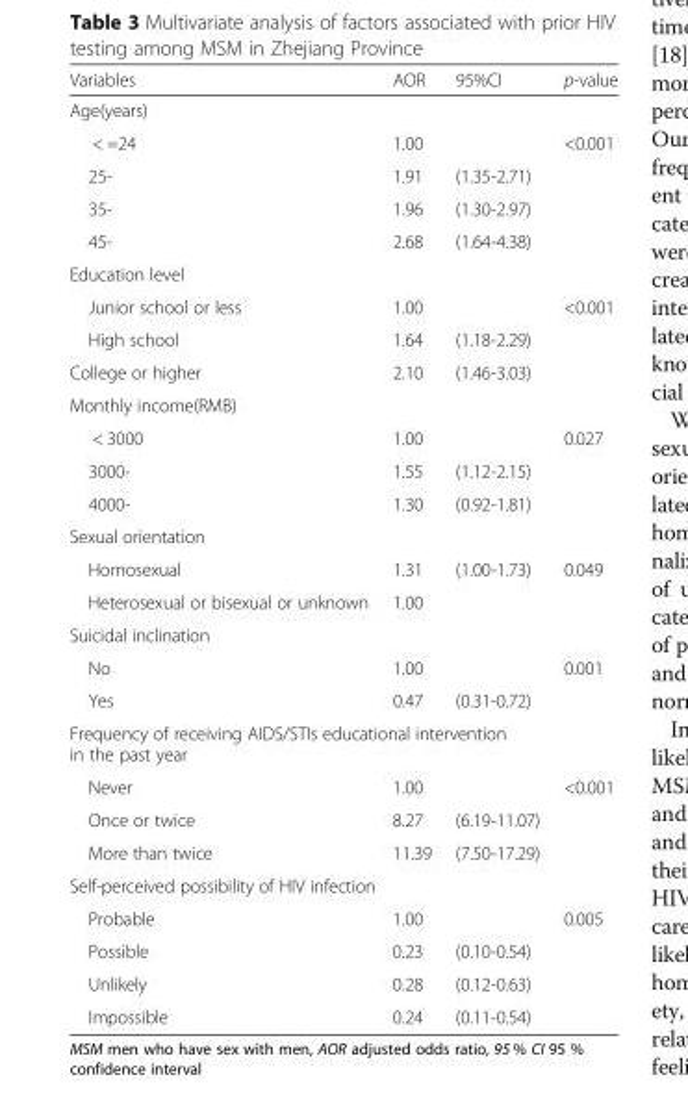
<table><thead><tr><td>Variables</td><td>AOR</td><td>95%CI</td><td>p-value</td></tr></thead><tbody><tr><td colspan="4">Age(years)</td></tr><tr><td>&lt; =24</td><td>1.00</td><td></td><td>&lt;0.001</td></tr><tr><td>25-</td><td>1.91</td><td>(1.35-2.71)</td><td></td></tr><tr><td>35-</td><td>1.96</td><td>(1.30-2.97)</td><td></td></tr><tr><td>45-</td><td>2.68</td><td>(1.64-4.38)</td><td></td></tr><tr><td colspan="4">Education level</td></tr><tr><td>Junior school or less</td><td>1.00</td><td></td><td>&lt;0.001</td></tr><tr><td>High school</td><td>1.64</td><td>(1.18-2.29)</td><td></td></tr><tr><td>College or higher</td><td>2.10</td><td>(1.46-3.03)</td><td></td></tr><tr><td colspan="4">Monthly income(RMB)</td></tr><tr><td>&lt; 3000</td><td>1.00</td><td></td><td>0.027</td></tr><tr><td>3000-</td><td>1.55</td><td>(1.12-2.15)</td><td></td></tr><tr><td>4000-</td><td>1.30</td><td>(0.92-1.81)</td><td></td></tr><tr><td colspan="4">Sexual orientation</td></tr><tr><td>Homosexual</td><td>1.31</td><td>(1.00-1.73)</td><td>0.049</td></tr><tr><td>Heterosexual or bisexual or unknown</td><td>1.00</td><td></td><td></td></tr><tr><td colspan="4">Suicidal inclination</td></tr><tr><td>No</td><td>1.00</td><td></td><td>0.001</td></tr><tr><td>Yes</td><td>0.47</td><td>(0.31-0.72)</td><td></td></tr><tr><td colspan="4">Frequency of receiving AIDS/STIs educational intervention in the past year</td></tr><tr><td>Never</td><td>1.00</td><td></td><td>&lt;0.001</td></tr><tr><td>Once or twice</td><td>8.27</td><td>(6.19-11.07)</td><td></td></tr><tr><td>More than twice</td><td>11.39</td><td>(7.50-17.29)</td><td></td></tr><tr><td colspan="4">Self-perceived possibility of HIV infection</td></tr><tr><td>Probable</td><td>1.00</td><td></td><td>0.005</td></tr><tr><td>Possible</td><td>0.23</td><td>(0.10-0.54)</td><td></td></tr><tr><td>Unlikely</td><td>0.28</td><td>(0.12-0.63)</td><td></td></tr><tr><td>Impossible</td><td>0.24</td><td>(0.11-0.54)</td><td></td></tr></tbody></table>